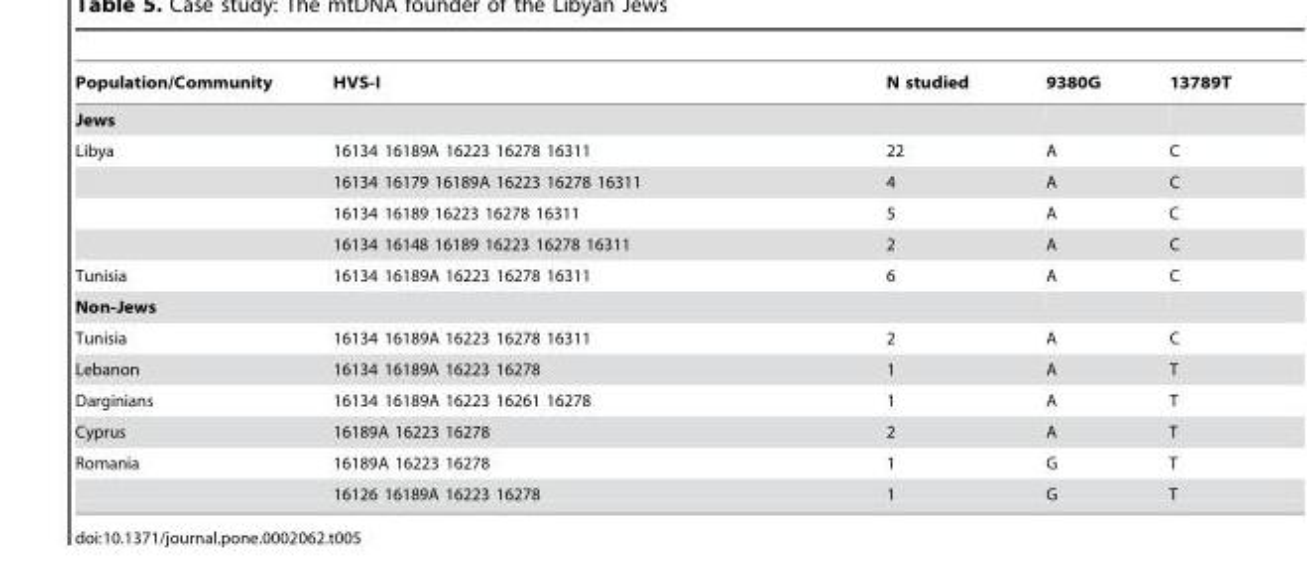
<table><thead><tr><td>Population/Community</td><td>HVS-I</td><td>N studied</td><td>9380G</td><td>13789T</td></tr></thead><tbody><tr><td colspan="5">Jews</td></tr><tr><td rowspan="4">Libya</td><td>16134 16189A 16223 16278 16311</td><td>22</td><td>A</td><td>C</td></tr><tr><td>16134 16179 16189A 16223 16278 16311</td><td>4</td><td>A</td><td>C</td></tr><tr><td>16134 16189 16223 16278 16311</td><td>5</td><td>A</td><td>C</td></tr><tr><td>16134 16148 16189 16223 16278 16311</td><td>2</td><td>A</td><td>C</td></tr><tr><td>Tunisia</td><td>16134 16189A 16223 16278 16311</td><td>6</td><td>A</td><td>C</td></tr><tr><td colspan="5">Non-Jews</td></tr><tr><td>Tunisia</td><td>16134 16189A 16223 16278 16311</td><td>2</td><td>A</td><td>C</td></tr><tr><td>Lebanon</td><td>16134 16189A 16223 16278</td><td>1</td><td>A</td><td>T</td></tr><tr><td>Darginians</td><td>16134 16189A 16223 16261 16278</td><td>1</td><td>A</td><td>T</td></tr><tr><td>Cyprus</td><td>16189A 16223 16278</td><td>2</td><td>A</td><td>T</td></tr><tr><td rowspan="2">Romania</td><td>16189A 16223 16278</td><td>1</td><td>G</td><td>T</td></tr><tr><td>16126 16189A 16223 16278</td><td>1</td><td>G</td><td>T</td></tr></tbody></table>